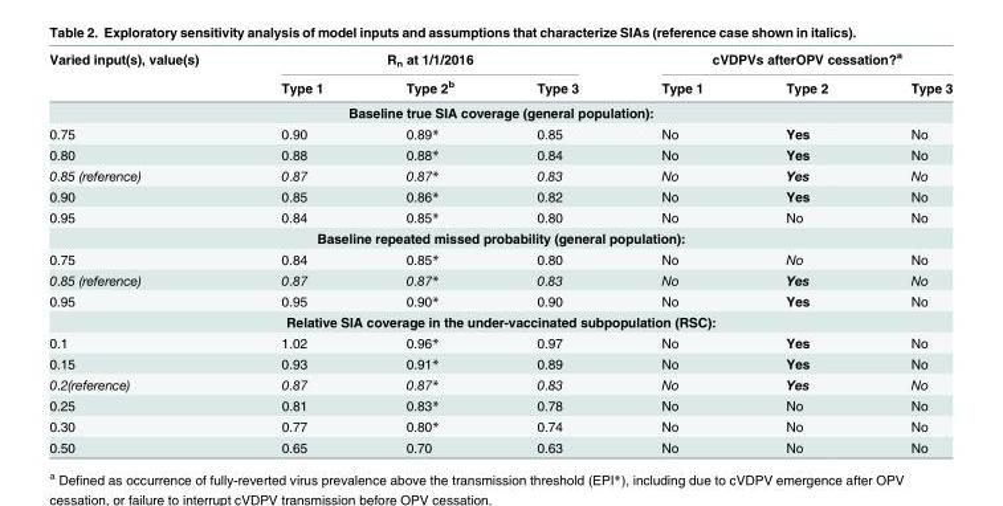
<table><thead><tr><td rowspan="2">Varied input(s), value(s)</td><td colspan="3">R<sub>n</sub> at 1/1/2016</td><td colspan="3">cVDPVs afterOPV cessation?<sup>a</sup></td></tr><tr><td>Type 1</td><td>Type 2<sup>b</sup></td><td>Type 3</td><td>Type 1</td><td>Type 2</td><td>Type 3</td></tr></thead><tbody><tr><td colspan="7">Baseline true SIA coverage (general population):</td></tr><tr><td>0.75</td><td>0.90</td><td>0.89*</td><td>0.85</td><td>No</td><td>Yes</td><td>No</td></tr><tr><td>0.80</td><td>0.88</td><td>0.88*</td><td>0.84</td><td>No</td><td>Yes</td><td>No</td></tr><tr><td>0.85 (reference)</td><td>0.87</td><td>0.87*</td><td>0.83</td><td>No</td><td>Yes</td><td>No</td></tr><tr><td>0.90</td><td>0.85</td><td>0.86*</td><td>0.82</td><td>No</td><td>Yes</td><td>No</td></tr><tr><td>0.95</td><td>0.84</td><td>0.85*</td><td>0.80</td><td>No</td><td>No</td><td>No</td></tr><tr><td colspan="7">Baseline repeated missed probability (general population):</td></tr><tr><td>0.75</td><td>0.84</td><td>0.85*</td><td>0.80</td><td>No</td><td>No</td><td>No</td></tr><tr><td>0.85 (reference)</td><td>0.87</td><td>0.87*</td><td>0.83</td><td>No</td><td>Yes</td><td>No</td></tr><tr><td>0.95</td><td>0.95</td><td>0.90*</td><td>0.90</td><td>No</td><td>Yes</td><td>No</td></tr><tr><td colspan="7">Relative SIA coverage in the under-vaccinated subpopulation (RSC):</td></tr><tr><td>0.1</td><td>1.02</td><td>0.96*</td><td>0.97</td><td>No</td><td>Yes</td><td>No</td></tr><tr><td>0.15</td><td>0.93</td><td>0.91*</td><td>0.89</td><td>No</td><td>Yes</td><td>No</td></tr><tr><td>0.2(reference)</td><td>0.87</td><td>0.87*</td><td>0.83</td><td>No</td><td>Yes</td><td>No</td></tr><tr><td>0.25</td><td>0.81</td><td>0.83*</td><td>0.78</td><td>No</td><td>No</td><td>No</td></tr><tr><td>0.30</td><td>0.77</td><td>0.80*</td><td>0.74</td><td>No</td><td>No</td><td>No</td></tr><tr><td>0.50</td><td>0.65</td><td>0.70</td><td>0.63</td><td>No</td><td>No</td><td>No</td></tr></tbody></table>